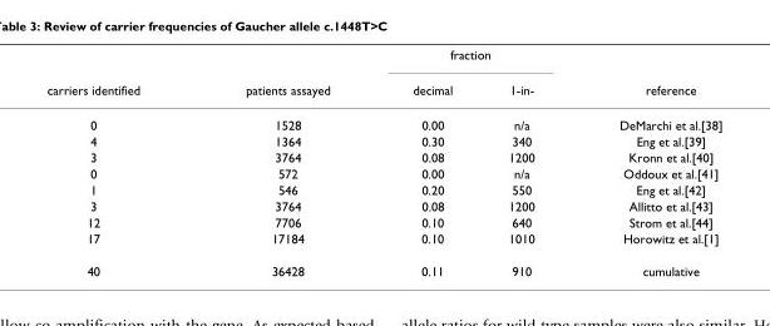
<table><thead><tr><td rowspan="2">carriers identified</td><td rowspan="2">patients assayed</td><td colspan="2">fraction</td><td rowspan="2">reference</td></tr><tr><td>decimal</td><td>1-in-</td></tr></thead><tbody><tr><td>0</td><td>1528</td><td>0.00</td><td>n/a</td><td>DeMarchi et al.[38]</td></tr><tr><td>4</td><td>1364</td><td>0.30</td><td>340</td><td>Eng et al.[39]</td></tr><tr><td>3</td><td>3764</td><td>0.08</td><td>1200</td><td>Kronn et al.[40]</td></tr><tr><td>0</td><td>572</td><td>0.00</td><td>n/a</td><td>Oddoux et al.[41]</td></tr><tr><td>1</td><td>546</td><td>0.20</td><td>550</td><td>Eng et al.[42]</td></tr><tr><td>3</td><td>3764</td><td>0.08</td><td>1200</td><td>Allitto et al.[43]</td></tr><tr><td>12</td><td>7706</td><td>0.10</td><td>640</td><td>Strom et al.[44]</td></tr><tr><td>17</td><td>17184</td><td>0.10</td><td>1010</td><td>Horowitz et al.[1]</td></tr><tr><td>40</td><td>36428</td><td>0.11</td><td>910</td><td>cumulative</td></tr></tbody></table>